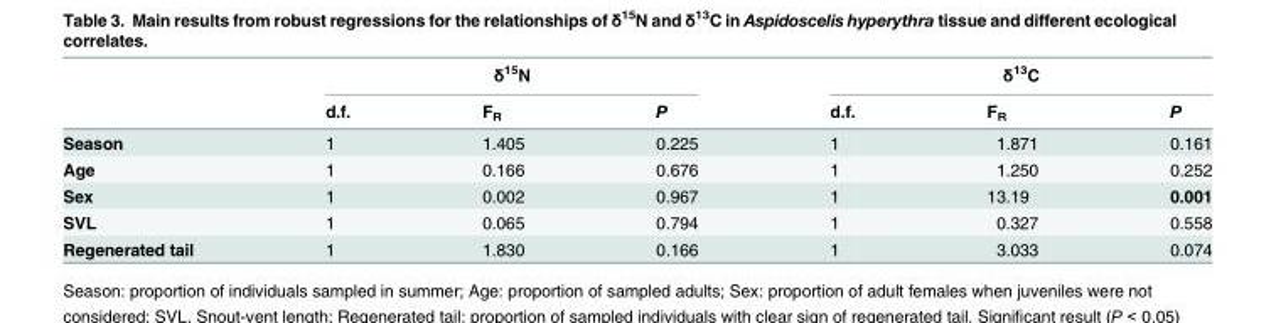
<table><thead><tr><td rowspan="2"></td><td colspan="3">δ<sup>15</sup>N</td><td colspan="3">δ<sup>13</sup>C</td></tr><tr><td>d.f.</td><td>F<sub>R</sub></td><td>P</td><td>d.f.</td><td>F<sub>R</sub></td><td>P</td></tr></thead><tbody><tr><td>Season</td><td>1</td><td>1.405</td><td>0.225</td><td>1</td><td>1.871</td><td>0.161</td></tr><tr><td>Age</td><td>1</td><td>0.166</td><td>0.676</td><td>1</td><td>1.250</td><td>0.252</td></tr><tr><td>Sex</td><td>1</td><td>0.002</td><td>0.967</td><td>1</td><td>13.19</td><td>0.001</td></tr><tr><td>SVL</td><td>1</td><td>0.065</td><td>0.794</td><td>1</td><td>0.327</td><td>0.558</td></tr><tr><td>Regenerated tail</td><td>1</td><td>1.830</td><td>0.166</td><td>1</td><td>3.033</td><td>0.074</td></tr></tbody></table>